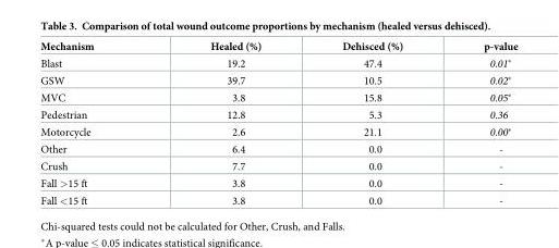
<table><thead><tr><td>Mechanism</td><td>Healed (%)</td><td>Dehisced (%)</td><td>p-value</td></tr></thead><tbody><tr><td>Blast</td><td>19.2</td><td>47.4</td><td>0.01*</td></tr><tr><td>GSW</td><td>39.7</td><td>10.5</td><td>0.02*</td></tr><tr><td>MVC</td><td>3.8</td><td>15.8</td><td>0.05*</td></tr><tr><td>Pedestrian</td><td>12.8</td><td>5.3</td><td>0.36</td></tr><tr><td>Motorcycle</td><td>2.6</td><td>21.1</td><td>0.00*</td></tr><tr><td>Other</td><td>6.4</td><td>0.0</td><td>-</td></tr><tr><td>Crush</td><td>7.7</td><td>0.0</td><td>-</td></tr><tr><td>Fall &gt;15 ft</td><td>3.8</td><td>0.0</td><td>-</td></tr><tr><td>Fall &lt;15 ft</td><td>3.8</td><td>0.0</td><td>-</td></tr></tbody></table>